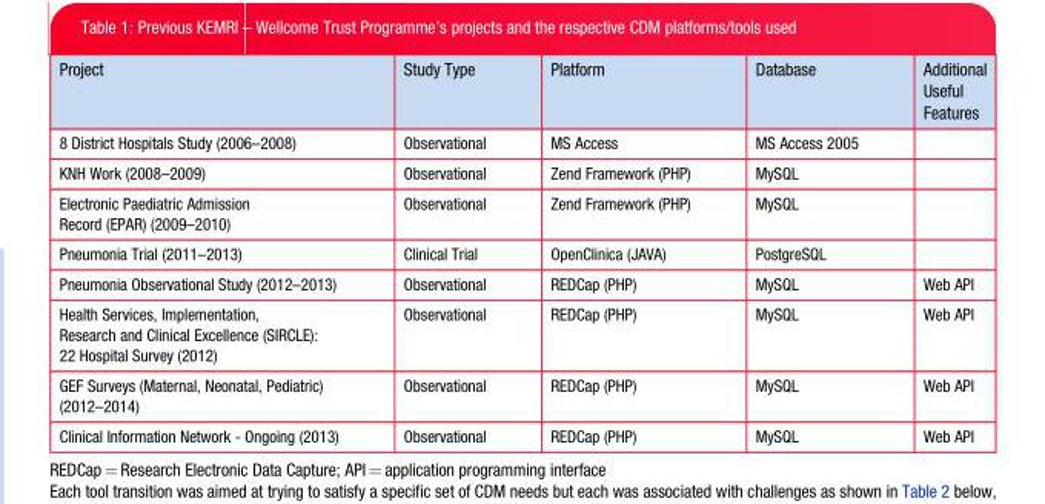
<table><thead><tr><td>Project</td><td>Study Type</td><td>Platform</td><td>Database</td><td>Additional Useful Features</td></tr></thead><tbody><tr><td>8 District Hospitals Study (2006–2008)</td><td>Observational</td><td>MS Access</td><td>MS Access 2005</td><td></td></tr><tr><td>KNH Work (2008–2009)</td><td>Observational</td><td>Zend Framework (PHP)</td><td>MySQL</td><td></td></tr><tr><td>Electronic Paediatric Admission Record (EPAR) (2009–2010)</td><td>Observational</td><td>Zend Framework (PHP)</td><td>MySQL</td><td></td></tr><tr><td>Pneumonia Trial (2011–2013)</td><td>Clinical Trial</td><td>OpenClinica (JAVA)</td><td>PostgreSQL</td><td></td></tr><tr><td>Pneumonia Observational Study (2012–2013)</td><td>Observational</td><td>REDCap (PHP)</td><td>MySQL</td><td>Web API</td></tr><tr><td>Health Services, Implementation, Research and Clinical Excellence (SIRCLE): 22 Hospital Survey (2012)</td><td>Observational</td><td>REDCap (PHP)</td><td>MySQL</td><td>Web API</td></tr><tr><td>GEF Surveys (Maternal, Neonatal, Pediatric) (2012–2014)</td><td>Observational</td><td>REDCap (PHP)</td><td>MySQL</td><td>Web API</td></tr><tr><td>Clinical Information Network - Ongoing (2013)</td><td>Observational</td><td>REDCap (PHP)</td><td>MySQL</td><td>Web API</td></tr></tbody></table>